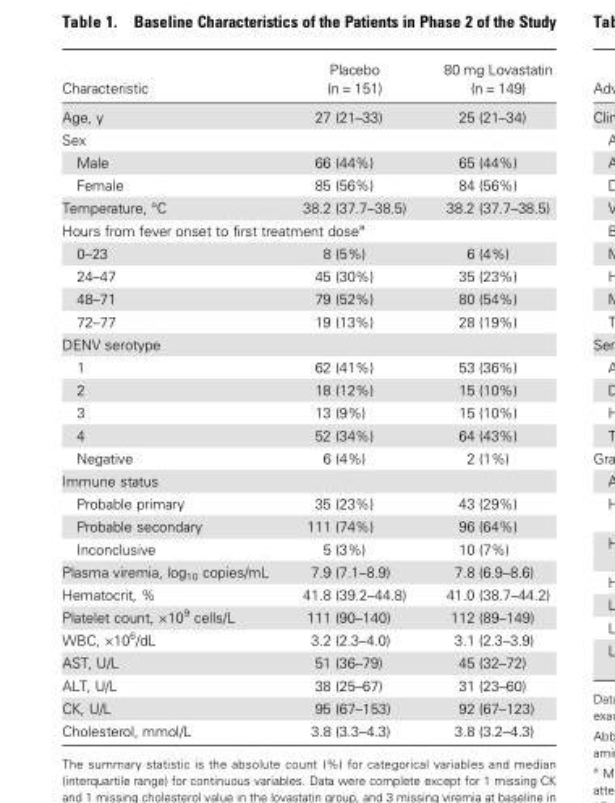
<table><thead><tr><td>Characteristic</td><td>Placebo (n = 151)</td><td>80 mg Lovastatin (n = 149)</td></tr></thead><tbody><tr><td>Age, y</td><td>27 (21–33)</td><td>25 (21–34)</td></tr><tr><td colspan="3">Sex</td></tr><tr><td>Male</td><td>66 (44%)</td><td>65 (44%)</td></tr><tr><td>Female</td><td>85 (56%)</td><td>84 (56%)</td></tr><tr><td>Temperature, °C</td><td>38.2 (37.7–38.5)</td><td>38.2 (37.7–38.5)</td></tr><tr><td colspan="3">Hours from fever onset to first treatment dose<sup>a</sup></td></tr><tr><td>0–23</td><td>8 (5%)</td><td>6 (4%)</td></tr><tr><td>24–47</td><td>45 (30%)</td><td>35 (23%)</td></tr><tr><td>48–71</td><td>79 (52%)</td><td>80 (54%)</td></tr><tr><td>72–77</td><td>19 (13%)</td><td>28 (19%)</td></tr><tr><td colspan="3">DENV serotype</td></tr><tr><td>1</td><td>62 (41%)</td><td>53 (36%)</td></tr><tr><td>2</td><td>18 (12%)</td><td>15 (10%)</td></tr><tr><td>3</td><td>13 (9%)</td><td>15 (10%)</td></tr><tr><td>4</td><td>52 (34%)</td><td>64 (43%)</td></tr><tr><td>Negative</td><td>6 (4%)</td><td>2 (1%)</td></tr><tr><td colspan="3">Immune status</td></tr><tr><td>Probable primary</td><td>35 (23%)</td><td>43 (29%)</td></tr><tr><td>Probable secondary</td><td>111 (74%)</td><td>96 (64%)</td></tr><tr><td>Inconclusive</td><td>5 (3%)</td><td>10 (7%)</td></tr><tr><td>Plasma viremia, log<sub>10</sub> copies/mL</td><td>7.9 (7.1–8.9)</td><td>7.8 (6.9–8.6)</td></tr><tr><td>Hematocrit, %</td><td>41.8 (39.2–44.8)</td><td>41.0 (38.7–44.2)</td></tr><tr><td>Platelet count, ×10<sup>9</sup> cells/L</td><td>111 (90–140)</td><td>112 (89–149)</td></tr><tr><td>WBC, ×10<sup>6</sup>/dL</td><td>3.2 (2.3–4.0)</td><td>3.1 (2.3–3.9)</td></tr><tr><td>AST, U/L</td><td>51 (36–79)</td><td>45 (32–72)</td></tr><tr><td>ALT, U/L</td><td>38 (25–67)</td><td>31 (23–60)</td></tr><tr><td>CK, U/L</td><td>95 (67–153)</td><td>92 (67–123)</td></tr><tr><td>Cholesterol, mmol/L</td><td>3.8 (3.3–4.3)</td><td>3.8 (3.2–4.3)</td></tr></tbody></table>